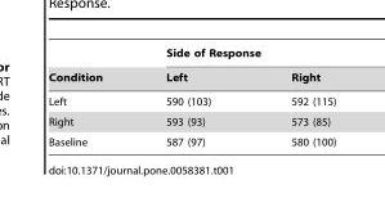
<table><thead><tr><td rowspan="2">Condition</td><td colspan="2">Side of Response</td></tr><tr><td>Left</td><td>Right</td></tr></thead><tbody><tr><td>Left</td><td>590 (103)</td><td>592 (115)</td></tr><tr><td>Right</td><td>593 (93)</td><td>573 (85)</td></tr><tr><td>Baseline</td><td>587 (97)</td><td>580 (100)</td></tr></tbody></table>